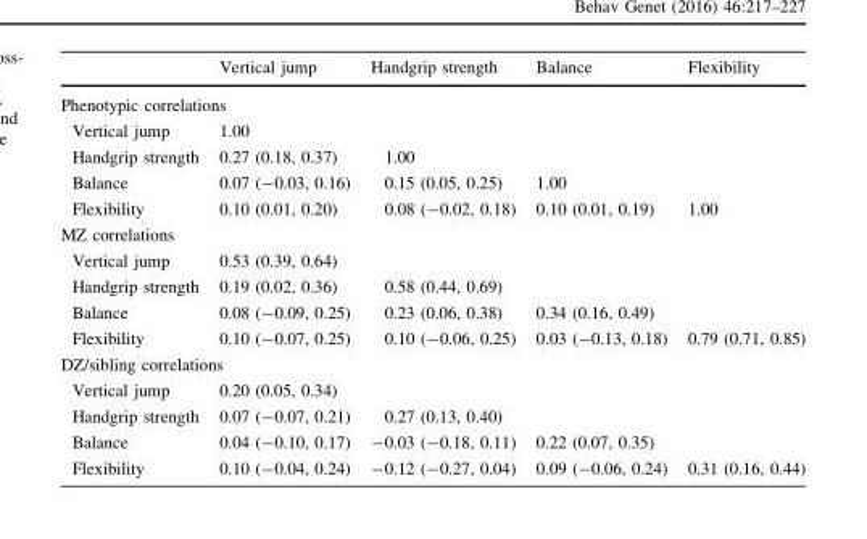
<table><thead><tr><td></td><td>Vertical jump</td><td>Handgrip strength</td><td>Balance</td><td>Flexibility</td></tr></thead><tbody><tr><td colspan="5">Phenotypic correlations</td></tr><tr><td>Vertical jump</td><td>1.00</td><td></td><td></td><td></td></tr><tr><td>Handgrip strength</td><td>0.27 (0.18, 0.37)</td><td>1.00</td><td></td><td></td></tr><tr><td>Balance</td><td>0.07 (-0.03, 0.16)</td><td>0.15 (0.05, 0.25)</td><td>1.00</td><td></td></tr><tr><td>Flexibility</td><td>0.10 (0.01, 0.20)</td><td>0.08 (-0.02, 0.18)</td><td>0.10 (0.01, 0.19)</td><td>1.00</td></tr><tr><td colspan="5">MZ correlations</td></tr><tr><td>Vertical jump</td><td>0.53 (0.39, 0.64)</td><td></td><td></td><td></td></tr><tr><td>Handgrip strength</td><td>0.19 (0.02, 0.36)</td><td>0.58 (0.44, 0.69)</td><td></td><td></td></tr><tr><td>Balance</td><td>0.08 (-0.09, 0.25)</td><td>0.23 (0.06, 0.38)</td><td>0.34 (0.16, 0.49)</td><td></td></tr><tr><td>Flexibility</td><td>0.10 (-0.07, 0.25)</td><td>0.10 (-0.06, 0.25)</td><td>0.03 (-0.13, 0.18)</td><td>0.79 (0.71, 0.85)</td></tr><tr><td colspan="5">DZ/sibling correlations</td></tr><tr><td>Vertical jump</td><td>0.20 (0.05, 0.34)</td><td></td><td></td><td></td></tr><tr><td>Handgrip strength</td><td>0.07 (-0.07, 0.21)</td><td>0.27 (0.13, 0.40)</td><td></td><td></td></tr><tr><td>Balance</td><td>0.04 (-0.10, 0.17)</td><td>-0.03 (-0.18, 0.11)</td><td>0.22 (0.07, 0.35)</td><td></td></tr><tr><td>Flexibility</td><td>0.10 (-0.04, 0.24)</td><td>-0.12 (-0.27, 0.04)</td><td>0.09 (-0.06, 0.24)</td><td>0.31 (0.16, 0.44)</td></tr></tbody></table>